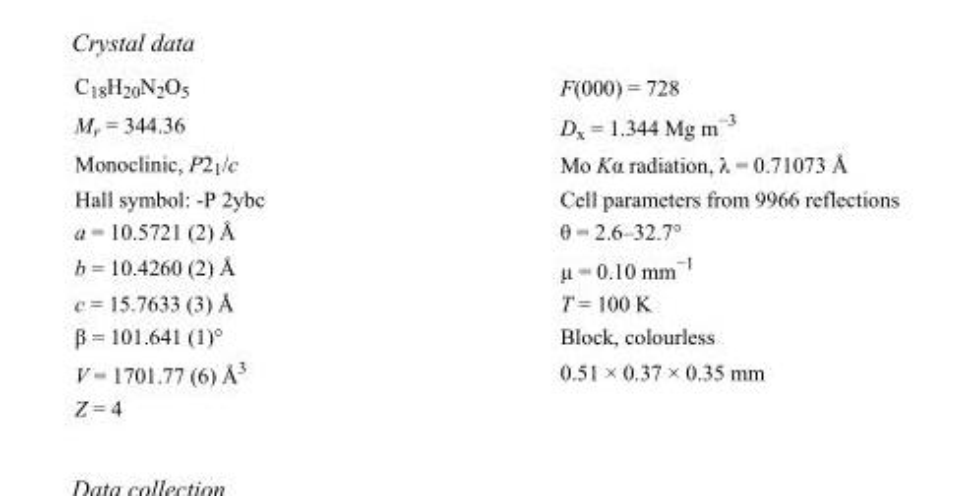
<table><tbody><tr><td>C<sub>18</sub>H<sub>20</sub>N<sub>2</sub>O<sub>5</sub></td><td>F(000) = 728</td></tr><tr><td>M<sub>r</sub> = 344.36</td><td>D<sub>x</sub> = 1.344 Mg m<sup>−3</sup></td></tr><tr><td>Monoclinic, P2<sub>1</sub>/c</td><td>Mo Kα radiation, λ = 0.71073 Å</td></tr><tr><td>Hall symbol: -P 2ybc</td><td>Cell parameters from 9966 reflections</td></tr><tr><td>a = 10.5721 (2) Å</td><td>θ = 2.6–32.7°</td></tr><tr><td>b = 10.4260 (2) Å</td><td>µ = 0.10 mm<sup>−1</sup></td></tr><tr><td>c = 15.7633 (3) Å</td><td>T = 100 K</td></tr><tr><td>β = 101.641 (1)°</td><td>Block, colourless</td></tr><tr><td>V = 1701.77 (6) Å<sup>3</sup></td><td>0.51 × 0.37 × 0.35 mm</td></tr><tr><td>Z = 4</td><td></td></tr></tbody></table>